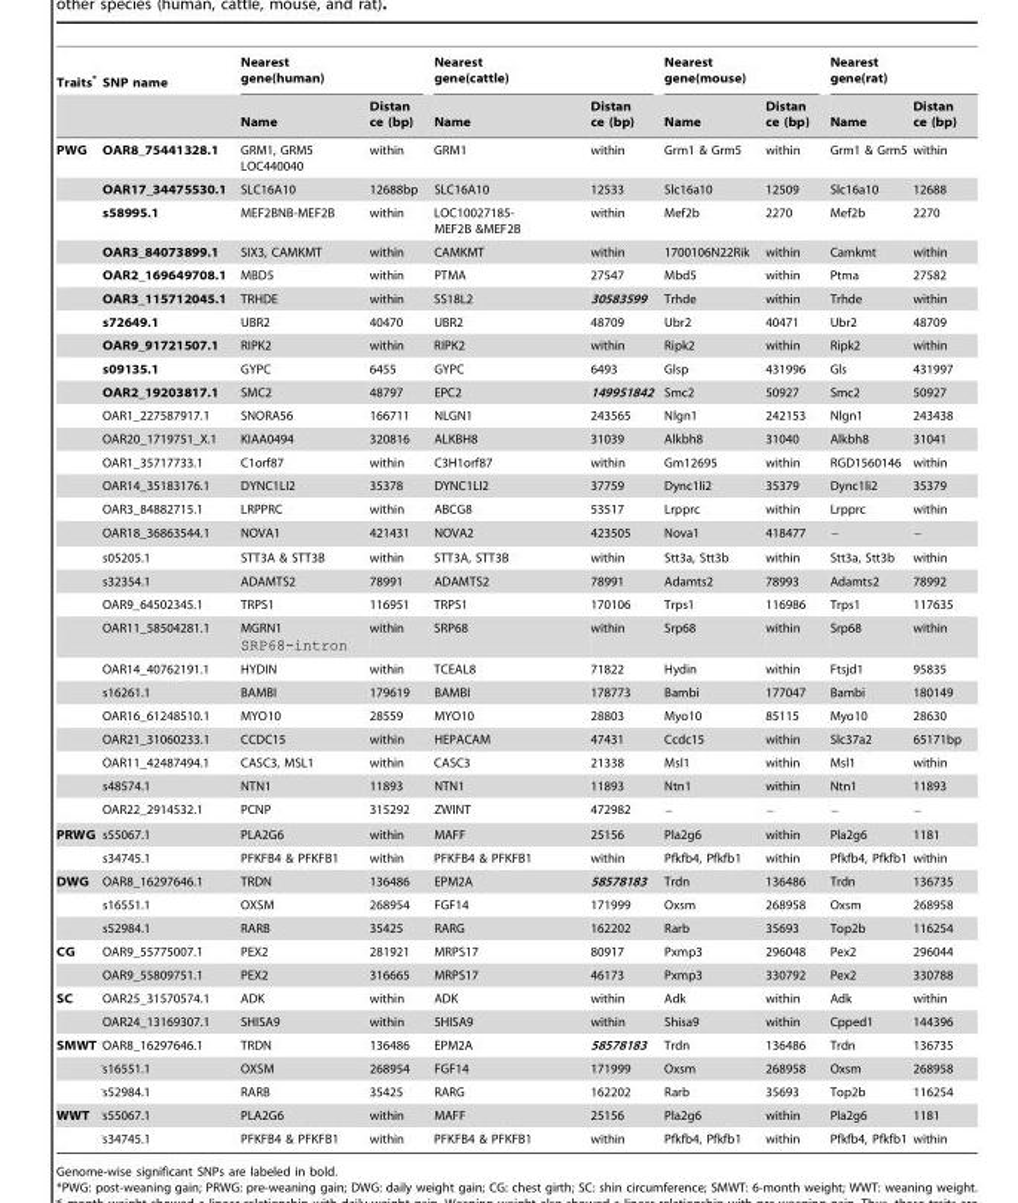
<table><thead><tr><td rowspan="2">Traits*</td><td rowspan="2">SNP name</td><td colspan="2">Nearest gene(human)</td><td colspan="2">Nearest gene(cattle)</td><td colspan="2">Nearest gene(mouse)</td><td colspan="2">Nearest gene(rat)</td></tr><tr><td>Name</td><td>Distan ce (bp)</td><td>Name</td><td>Distan ce (bp)</td><td>Name</td><td>Distan ce (bp)</td><td>Name</td><td>Distan ce (bp)</td></tr></thead><tbody><tr><td rowspan="27">PWG</td><td>OAR8_75441328.1</td><td>GRM1, GRM5 LOC440040</td><td>within</td><td>GRM1</td><td>within</td><td>Grm1 &amp; Grm5</td><td>within</td><td>Grm1 &amp; Grm5</td><td>within</td></tr><tr><td>OAR17_34475530.1</td><td>SLC16A10</td><td>12688bp</td><td>SLC16A10</td><td>12533</td><td>Slc16a10</td><td>12509</td><td>Slc16a10</td><td>12688</td></tr><tr><td>s58995.1</td><td>MEF2BNB-MEF2B</td><td>within</td><td>LOC10027185- MEF2B &amp;MEF2B</td><td>within</td><td>Mef2b</td><td>2270</td><td>Mef2b</td><td>2270</td></tr><tr><td>OAR3_84073899.1</td><td>SIX3, CAMKMT</td><td>within</td><td>CAMKMT</td><td>within</td><td>1700106N22Rik</td><td>within</td><td>Camkmt</td><td>within</td></tr><tr><td>OAR2_169649708.1</td><td>MBD5</td><td>within</td><td>PTMA</td><td>27547</td><td>Mbd5</td><td>within</td><td>Ptma</td><td>27582</td></tr><tr><td>OAR3_115712045.1</td><td>TRHDE</td><td>within</td><td>SS18L2</td><td>30583599</td><td>Trhde</td><td>within</td><td>Trhde</td><td>within</td></tr><tr><td>s72649.1</td><td>UBR2</td><td>40470</td><td>UBR2</td><td>48709</td><td>Ubr2</td><td>40471</td><td>Ubr2</td><td>48709</td></tr><tr><td>OAR9_91721507.1</td><td>RIPK2</td><td>within</td><td>RIPK2</td><td>within</td><td>Ripk2</td><td>within</td><td>Ripk2</td><td>within</td></tr><tr><td>s09135.1</td><td>GYPC</td><td>6455</td><td>GYPC</td><td>6493</td><td>Glsp</td><td>431996</td><td>Gls</td><td>431997</td></tr><tr><td>OAR2_19203817.1</td><td>SMC2</td><td>48797</td><td>EPC2</td><td>149951842</td><td>Smc2</td><td>50927</td><td>Smc2</td><td>50927</td></tr><tr><td>OAR1_227587917.1</td><td>SNORA56</td><td>166711</td><td>NLGN1</td><td>243565</td><td>Nlgn1</td><td>242153</td><td>Nlgn1</td><td>243438</td></tr><tr><td>OAR20_1719751_X.1</td><td>KIAA0494</td><td>320816</td><td>ALKBH8</td><td>31039</td><td>Alkbh8</td><td>31040</td><td>Alkbh8</td><td>31041</td></tr><tr><td>OAR1_35717733.1</td><td>C1orf87</td><td>within</td><td>C3H1orf87</td><td>within</td><td>Gm12695</td><td>within</td><td>RGD1560146</td><td>within</td></tr><tr><td>OAR14_35183176.1</td><td>DYNC1LI2</td><td>35378</td><td>DYNC1LI2</td><td>37759</td><td>Dync1li2</td><td>35379</td><td>Dync1li2</td><td>35379</td></tr><tr><td>OAR3_84882715.1</td><td>LRPPRC</td><td>within</td><td>ABCG8</td><td>53517</td><td>Lrpprc</td><td>within</td><td>Lrpprc</td><td>within</td></tr><tr><td>OAR18_36863544.1</td><td>NOVA1</td><td>421431</td><td>NOVA2</td><td>423505</td><td>Nova1</td><td>418477</td><td>–</td><td>–</td></tr><tr><td>s05205.1</td><td>STT3A &amp; STT3B</td><td>within</td><td>STT3A, STT3B</td><td>within</td><td>Stt3a, Stt3b</td><td>within</td><td>Stt3a, Stt3b</td><td>within</td></tr><tr><td>s32354.1</td><td>ADAMTS2</td><td>78991</td><td>ADAMTS2</td><td>78991</td><td>Adamts2</td><td>78993</td><td>Adamts2</td><td>78992</td></tr><tr><td>OAR9_64502345.1</td><td>TRPS1</td><td>116951</td><td>TRPS1</td><td>170106</td><td>Trps1</td><td>116986</td><td>Trps1</td><td>117635</td></tr><tr><td>OAR11_58504281.1</td><td>MGRN1 SRP68-intron</td><td>within</td><td>SRP68</td><td>within</td><td>Srp68</td><td>within</td><td>Srp68</td><td>within</td></tr><tr><td>OAR14_40762191.1</td><td>HYDIN</td><td>within</td><td>TCEAL8</td><td>71822</td><td>Hydin</td><td>within</td><td>Ftsjd1</td><td>95835</td></tr><tr><td>s16261.1</td><td>BAMBI</td><td>179619</td><td>BAMBI</td><td>178773</td><td>Bambi</td><td>177047</td><td>Bambi</td><td>180149</td></tr><tr><td>OAR16_61248510.1</td><td>MYO10</td><td>28559</td><td>MYO10</td><td>28803</td><td>Myo10</td><td>85115</td><td>Myo10</td><td>28630</td></tr><tr><td>OAR21_31060233.1</td><td>CCDC15</td><td>within</td><td>HEPACAM</td><td>47431</td><td>Ccdc15</td><td>within</td><td>Slc37a2</td><td>65171bp</td></tr><tr><td>OAR11_42487494.1</td><td>CASC3, MSL1</td><td>within</td><td>CASC3</td><td>21338</td><td>Msl1</td><td>within</td><td>Msl1</td><td>within</td></tr><tr><td>s48574.1</td><td>NTN1</td><td>11893</td><td>NTN1</td><td>11893</td><td>Ntn1</td><td>within</td><td>Ntn1</td><td>11893</td></tr><tr><td>OAR22_2914532.1</td><td>PCNP</td><td>315292</td><td>ZWINT</td><td>472982</td><td>–</td><td>–</td><td>–</td><td>–</td></tr><tr><td rowspan="2">PRWG</td><td>s55067.1</td><td>PLA2G6</td><td>within</td><td>MAFF</td><td>25156</td><td>Pla2g6</td><td>within</td><td>Pla2g6</td><td>1181</td></tr><tr><td>s34745.1</td><td>PFKFB4 &amp; PFKFB1</td><td>within</td><td>PFKFB4 &amp; PFKFB1</td><td>within</td><td>Pfkfb4, Pfkfb1</td><td>within</td><td>Pfkfb4, Pfkfb1</td><td>within</td></tr><tr><td rowspan="3">DWG</td><td>OAR8_16297646.1</td><td>TRDN</td><td>136486</td><td>EPM2A</td><td>58578183</td><td>Trdn</td><td>136486</td><td>Trdn</td><td>136735</td></tr><tr><td>s16551.1</td><td>OXSM</td><td>268954</td><td>FGF14</td><td>171999</td><td>Oxsm</td><td>268958</td><td>Oxsm</td><td>268958</td></tr><tr><td>s52984.1</td><td>RARB</td><td>35425</td><td>RARG</td><td>162202</td><td>Rarb</td><td>35693</td><td>Top2b</td><td>116254</td></tr><tr><td rowspan="2">CG</td><td>OAR9_55775007.1</td><td>PEX2</td><td>281921</td><td>MRPS17</td><td>80917</td><td>Pxmp3</td><td>296048</td><td>Pex2</td><td>296044</td></tr><tr><td>OAR9_55809751.1</td><td>PEX2</td><td>316665</td><td>MRPS17</td><td>46173</td><td>Pxmp3</td><td>330792</td><td>Pex2</td><td>330788</td></tr><tr><td rowspan="2">SC</td><td>OAR25_31570574.1</td><td>ADK</td><td>within</td><td>ADK</td><td>within</td><td>Adk</td><td>within</td><td>Adk</td><td>within</td></tr><tr><td>OAR24_13169307.1</td><td>SHISA9</td><td>within</td><td>SHISA9</td><td>within</td><td>Shisa9</td><td>within</td><td>Cpped1</td><td>144396</td></tr><tr><td rowspan="3">SMWT</td><td>ˆOAR8_16297646.1</td><td>TRDN</td><td>136486</td><td>EPM2A</td><td>58578183</td><td>Trdn</td><td>136486</td><td>Trdn</td><td>136735</td></tr><tr><td>ˆs16551.1</td><td>OXSM</td><td>268954</td><td>FGF14</td><td>171999</td><td>Oxsm</td><td>268958</td><td>Oxsm</td><td>268958</td></tr><tr><td>ˆs52984.1</td><td>RARB</td><td>35425</td><td>RARG</td><td>162202</td><td>Rarb</td><td>35693</td><td>Top2b</td><td>116254</td></tr><tr><td rowspan="2">WWT</td><td>ˆs55067.1</td><td>PLA2G6</td><td>within</td><td>MAFF</td><td>25156</td><td>Pla2g6</td><td>within</td><td>Pla2g6</td><td>1181</td></tr><tr><td>ˆs34745.1</td><td>PFKFB4 &amp; PFKFB1</td><td>within</td><td>PFKFB4 &amp; PFKFB1</td><td>within</td><td>Pfkfb4, Pfkfb1</td><td>within</td><td>Pfkfb4, Pfkfb1</td><td>within</td></tr></tbody></table>